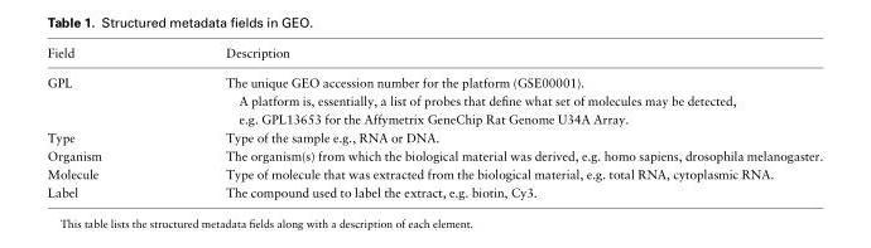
<table><thead><tr><td>Field</td><td>Description</td></tr></thead><tbody><tr><td>GPL</td><td>The unique GEO accession number for the platform (GSE00001). A platform is, essentially, a list of probes that define what set of molecules may be detected, e.g. GPL13653 for the Affymetrix GeneChip Rat Genome U34A Array.</td></tr><tr><td>Type</td><td>Type of the sample e.g., RNA or DNA.</td></tr><tr><td>Organism</td><td>The organism(s) from which the biological material was derived, e.g. homo sapiens, drosophila melanogaster.</td></tr><tr><td>Molecule</td><td>Type of molecule that was extracted from the biological material, e.g. total RNA, cytoplasmic RNA.</td></tr><tr><td>Label</td><td>The compound used to label the extract, e.g. biotin, Cy3.</td></tr></tbody></table>